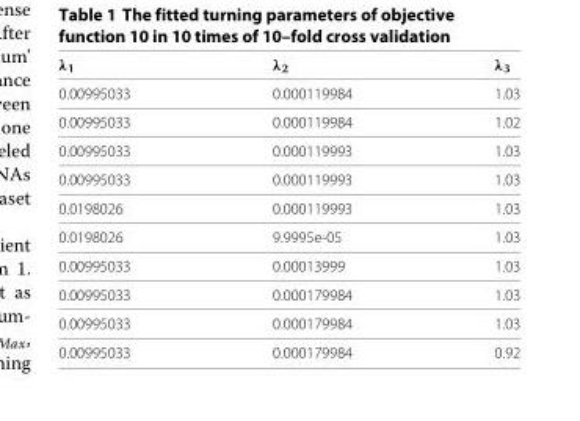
<table><thead><tr><td>λ<sub>1</sub></td><td>λ<sub>2</sub></td><td>λ<sub>3</sub></td></tr></thead><tbody><tr><td>0.00995033</td><td>0.000119984</td><td>1.03</td></tr><tr><td>0.00995033</td><td>0.000119984</td><td>1.02</td></tr><tr><td>0.00995033</td><td>0.000119993</td><td>1.03</td></tr><tr><td>0.00995033</td><td>0.000119993</td><td>1.03</td></tr><tr><td>0.0198026</td><td>0.000119993</td><td>1.03</td></tr><tr><td>0.0198026</td><td>9.9995e-05</td><td>1.03</td></tr><tr><td>0.00995033</td><td>0.00013999</td><td>1.03</td></tr><tr><td>0.00995033</td><td>0.000179984</td><td>1.03</td></tr><tr><td>0.00995033</td><td>0.000179984</td><td>1.03</td></tr><tr><td>0.00995033</td><td>0.000179984</td><td>0.92</td></tr></tbody></table>